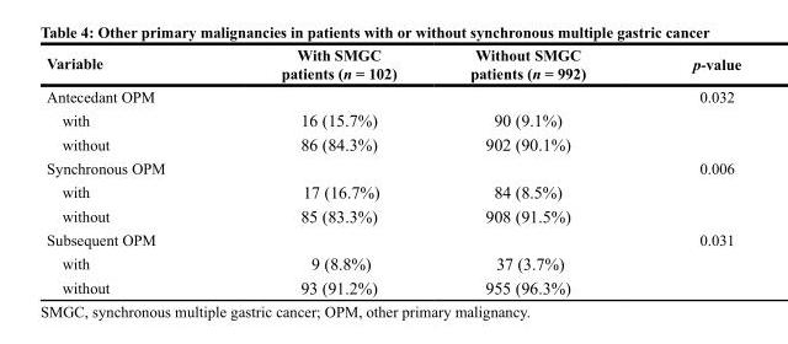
<table><thead><tr><td>Variable</td><td>With SMGC patients (n = 102)</td><td>Without SMGC patients (n = 992)</td><td>p-value</td></tr></thead><tbody><tr><td>Antecedant OPM</td><td></td><td></td><td>0.032</td></tr><tr><td>with</td><td>16 (15.7%)</td><td>90 (9.1%)</td><td></td></tr><tr><td>without</td><td>86 (84.3%)</td><td>902 (90.1%)</td><td></td></tr><tr><td>Synchronous OPM</td><td></td><td></td><td>0.006</td></tr><tr><td>with</td><td>17 (16.7%)</td><td>84 (8.5%)</td><td></td></tr><tr><td>without</td><td>85 (83.3%)</td><td>908 (91.5%)</td><td></td></tr><tr><td>Subsequent OPM</td><td></td><td></td><td>0.031</td></tr><tr><td>with</td><td>9 (8.8%)</td><td>37 (3.7%)</td><td></td></tr><tr><td>without</td><td>93 (91.2%)</td><td>955 (96.3%)</td><td></td></tr></tbody></table>